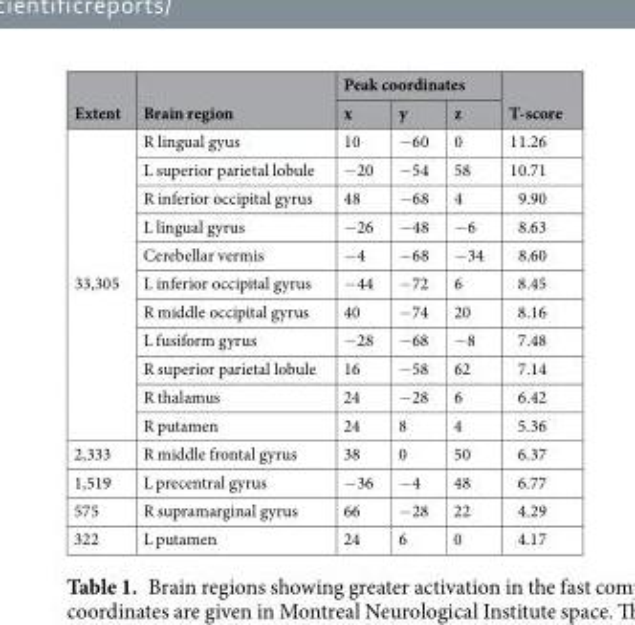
<table><thead><tr><td rowspan="2">Extent</td><td rowspan="2">Brain region</td><td colspan="3">Peak coordinates</td><td rowspan="2">T-score</td></tr><tr><td>x</td><td>y</td><td>z</td></tr></thead><tbody><tr><td rowspan="11">33,305</td><td>R lingual gyus</td><td>10</td><td>−60</td><td>0</td><td>11.26</td></tr><tr><td>L superior parietal lobule</td><td>−20</td><td>−54</td><td>58</td><td>10.71</td></tr><tr><td>R inferior occipital gyrus</td><td>48</td><td>−68</td><td>4</td><td>9.90</td></tr><tr><td>L lingual gyrus</td><td>−26</td><td>−48</td><td>−6</td><td>8.63</td></tr><tr><td>Cerebellar vermis</td><td>−4</td><td>−68</td><td>−34</td><td>8.60</td></tr><tr><td>L inferior occipital gyrus</td><td>−44</td><td>−72</td><td>6</td><td>8.45</td></tr><tr><td>R middle occipital gyrus</td><td>40</td><td>−74</td><td>20</td><td>8.16</td></tr><tr><td>L fusiform gyrus</td><td>−28</td><td>−68</td><td>−8</td><td>7.48</td></tr><tr><td>R superior parietal lobule</td><td>16</td><td>−58</td><td>62</td><td>7.14</td></tr><tr><td>R thalamus</td><td>24</td><td>−28</td><td>6</td><td>6.42</td></tr><tr><td>R putamen</td><td>24</td><td>8</td><td>4</td><td>5.36</td></tr><tr><td>2,333</td><td>R middle frontal gyrus</td><td>38</td><td>0</td><td>50</td><td>6.37</td></tr><tr><td>1,519</td><td>L precentral gyrus</td><td>−36</td><td>−4</td><td>48</td><td>6.77</td></tr><tr><td>575</td><td>R supramarginal gyrus</td><td>66</td><td>−28</td><td>22</td><td>4.29</td></tr><tr><td>322</td><td>L putamen</td><td>24</td><td>6</td><td>0</td><td>4.17</td></tr></tbody></table>